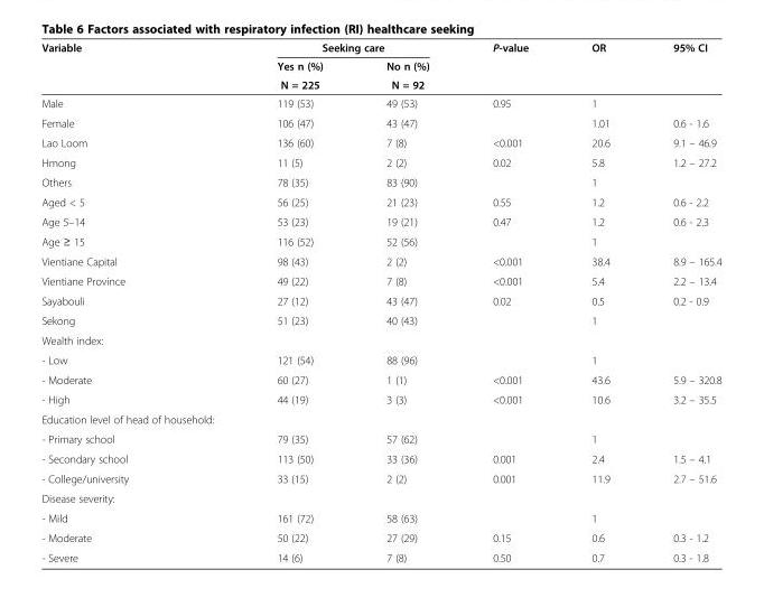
<table><thead><tr><td rowspan="3">Variable</td><td colspan="2">Seeking care</td><td rowspan="3">P-value</td><td rowspan="3">OR</td><td rowspan="3">95% CI</td></tr><tr><td rowspan="2">Yes n (%) N = 225</td><td rowspan="2">No n (%) N = 92</td></tr><tr></tr></thead><tbody><tr><td>Male</td><td>119 (53)</td><td>49 (53)</td><td>0.95</td><td>1</td><td></td></tr><tr><td>Female</td><td>106 (47)</td><td>43 (47)</td><td></td><td>1.01</td><td>0.6 - 1.6</td></tr><tr><td>Lao Loom</td><td>136 (60)</td><td>7 (8)</td><td>&lt;0.001</td><td>20.6</td><td>9.1 – 46.9</td></tr><tr><td>Hmong</td><td>11 (5)</td><td>2 (2)</td><td>0.02</td><td>5.8</td><td>1.2 – 27.2</td></tr><tr><td>Others</td><td>78 (35)</td><td>83 (90)</td><td></td><td>1</td><td></td></tr><tr><td>Aged &lt; 5</td><td>56 (25)</td><td>21 (23)</td><td>0.55</td><td>1.2</td><td>0.6 - 2.2</td></tr><tr><td>Age 5–14</td><td>53 (23)</td><td>19 (21)</td><td>0.47</td><td>1.2</td><td>0.6 - 2.3</td></tr><tr><td>Age ≥ 15</td><td>116 (52)</td><td>52 (56)</td><td></td><td>1</td><td></td></tr><tr><td>Vientiane Capital</td><td>98 (43)</td><td>2 (2)</td><td>&lt;0.001</td><td>38.4</td><td>8.9 – 165.4</td></tr><tr><td>Vientiane Province</td><td>49 (22)</td><td>7 (8)</td><td>&lt;0.001</td><td>5.4</td><td>2.2 – 13.4</td></tr><tr><td>Sayabouli</td><td>27 (12)</td><td>43 (47)</td><td>0.02</td><td>0.5</td><td>0.2 - 0.9</td></tr><tr><td>Sekong</td><td>51 (23)</td><td>40 (43)</td><td></td><td>1</td><td></td></tr><tr><td colspan="6">Wealth index:</td></tr><tr><td>- Low</td><td>121 (54)</td><td>88 (96)</td><td></td><td>1</td><td></td></tr><tr><td>- Moderate</td><td>60 (27)</td><td>1 (1)</td><td>&lt;0.001</td><td>43.6</td><td>5.9 – 320.8</td></tr><tr><td>- High</td><td>44 (19)</td><td>3 (3)</td><td>&lt;0.001</td><td>10.6</td><td>3.2 – 35.5</td></tr><tr><td colspan="6">Education level of head of household:</td></tr><tr><td>- Primary school</td><td>79 (35)</td><td>57 (62)</td><td></td><td>1</td><td></td></tr><tr><td>- Secondary school</td><td>113 (50)</td><td>33 (36)</td><td>0.001</td><td>2.4</td><td>1.5 – 4.1</td></tr><tr><td>- College/university</td><td>33 (15)</td><td>2 (2)</td><td>0.001</td><td>11.9</td><td>2.7 – 51.6</td></tr><tr><td colspan="6">Disease severity:</td></tr><tr><td>- Mild</td><td>161 (72)</td><td>58 (63)</td><td></td><td>1</td><td></td></tr><tr><td>- Moderate</td><td>50 (22)</td><td>27 (29)</td><td>0.15</td><td>0.6</td><td>0.3 - 1.2</td></tr><tr><td>- Severe</td><td>14 (6)</td><td>7 (8)</td><td>0.50</td><td>0.7</td><td>0.3 - 1.8</td></tr></tbody></table>